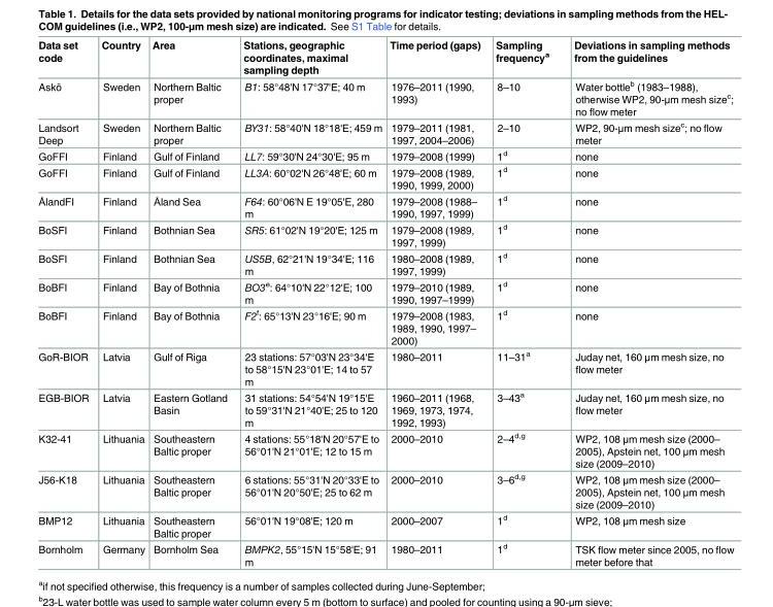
<table><thead><tr><td>Data set code</td><td>Country</td><td>Area</td><td>Stations, geographic coordinates, maximal sampling depth</td><td>Time period (gaps)</td><td>Sampling frequency<sup>a</sup></td><td>Deviations in sampling methods from the guidelines</td></tr></thead><tbody><tr><td>Askö</td><td>Sweden</td><td>Northern Baltic proper</td><td>B1: 58°48&#x27;N 17°37&#x27;E; 40 m</td><td>1976–2011 (1990, 1993)</td><td>8–10</td><td>Water bottle<sup>b</sup> (1983–1988), otherwise WP2, 90-μm mesh size<sup>c</sup>; no flow meter</td></tr><tr><td>Landsort Deep</td><td>Sweden</td><td>Northern Baltic proper</td><td>BY31: 58°40&#x27;N 18°18&#x27;E; 459 m</td><td>1979–2011 (1981, 1997, 2004–2006)</td><td>2–10</td><td>WP2, 90-μm mesh size<sup>c</sup>; no flow meter</td></tr><tr><td>GoFFI</td><td>Finland</td><td>Gulf of Finland</td><td>LL7: 59°30&#x27;N 24°30&#x27;E; 95 m</td><td>1979–2008 (1999)</td><td>1<sup>d</sup></td><td>none</td></tr><tr><td>GoFFI</td><td>Finland</td><td>Gulf of Finland</td><td>LL3A: 60°02&#x27;N 26°48&#x27;E; 60 m</td><td>1979–2008 (1989, 1990, 1999, 2000)</td><td>1<sup>d</sup></td><td>none</td></tr><tr><td>ÅlandFI</td><td>Finland</td><td>Åland Sea</td><td>F64: 60°06&#x27;N E 19°05&#x27;E, 280 m</td><td>1979–2008 (1988– 1990, 1997, 1999)</td><td>1<sup>d</sup></td><td>none</td></tr><tr><td>BoSFI</td><td>Finland</td><td>Bothnian Sea</td><td>SR5: 61°02&#x27;N 19°20&#x27;E; 125 m</td><td>1979–2008 (1989, 1997, 1999)</td><td>1<sup>d</sup></td><td>none</td></tr><tr><td>BoSFI</td><td>Finland</td><td>Bothnian Sea</td><td>US5B, 62°21&#x27;N 19°34&#x27;E; 116 m</td><td>1980–2008 (1989, 1997, 1999)</td><td>1<sup>d</sup></td><td>none</td></tr><tr><td>BoBFI</td><td>Finland</td><td>Bay of Bothnia</td><td>BO3<sup>e</sup>: 64°10&#x27;N 22°12&#x27;E; 100 m</td><td>1979–2010 (1989, 1990, 1997–1999)</td><td>1<sup>d</sup></td><td>none</td></tr><tr><td>BoBFI</td><td>Finland</td><td>Bay of Bothnia</td><td>F2<sup>f</sup>: 65°13&#x27;N 23°16&#x27;E; 90 m</td><td>1979–2008 (1983, 1989, 1990, 1997– 2000)</td><td>1<sup>d</sup></td><td>none</td></tr><tr><td>GoR-BIOR</td><td>Latvia</td><td>Gulf of Riga</td><td>23 stations: 57°03&#x27;N 23°34&#x27;E to 58°15&#x27;N 23°01&#x27;E; 14 to 57 m</td><td>1980–2011</td><td>11–31<sup>a</sup></td><td>Juday net, 160 μm mesh size, no flow meter</td></tr><tr><td>EGB-BIOR</td><td>Latvia</td><td>Eastern Gotland Basin</td><td>31 stations: 54°54&#x27;N 19°15&#x27;E to 59°31&#x27;N 21°40&#x27;E; 25 to 120 m</td><td>1960–2011 (1968, 1969, 1973, 1974, 1992, 1993)</td><td>3–43<sup>a</sup></td><td>Juday net, 160 μm mesh size, no flow meter</td></tr><tr><td>K32-41</td><td>Lithuania</td><td>Southeastern Baltic proper</td><td>4 stations: 55°18&#x27;N 20°57&#x27;E to 56°01&#x27;N 21°01&#x27;E; 12 to 15 m</td><td>2000–2010</td><td>2–4<sup>d,g</sup></td><td>WP2, 108 μm mesh size (2000– 2005), Apstein net, 100 μm mesh size (2009–2010)</td></tr><tr><td>J56-K18</td><td>Lithuania</td><td>Southeastern Baltic proper</td><td>6 stations: 55°31&#x27;N 20°33&#x27;E to 56°01&#x27;N 20°50&#x27;E; 25 to 62 m</td><td>2000–2010</td><td>3–6<sup>d,g</sup></td><td>WP2, 108 μm mesh size (2000– 2005), Apstein net, 100 μm mesh size (2009–2010)</td></tr><tr><td>BMP12</td><td>Lithuania</td><td>Southeastern Baltic proper</td><td>56°01&#x27;N 19°08&#x27;E; 120 m</td><td>2000–2007</td><td>1<sup>d</sup></td><td>WP2, 108 μm mesh size</td></tr><tr><td>Bornholm</td><td>Germany</td><td>Bornholm Sea</td><td>BMPK2, 55°15&#x27;N 15°58&#x27;E; 91 m</td><td>1980–2011</td><td>1<sup>d</sup></td><td>TSK flow meter since 2005, no flow meter before that</td></tr></tbody></table>